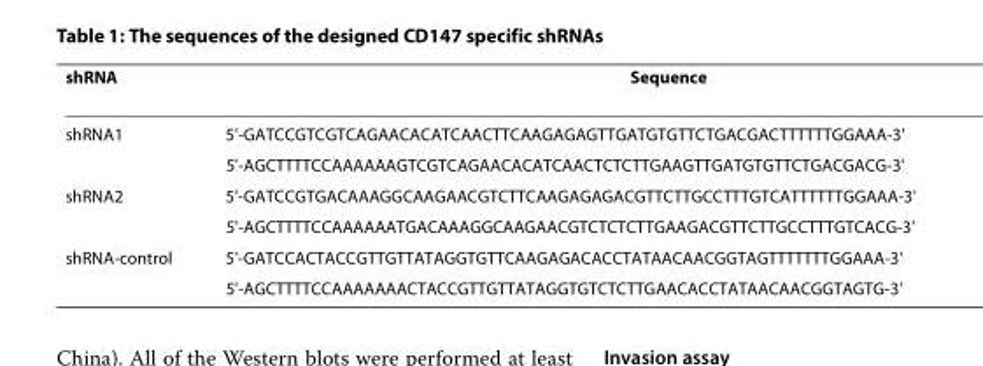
<table><thead><tr><td>shRNA</td><td>Sequence</td></tr></thead><tbody><tr><td rowspan="2">shRNA1</td><td>5&#x27;-GATCCGTCGTCAGAACACATCAACTTCAAGAGAGTTGATGTGTTCTGACGACTTTTTTGGAAA-3&#x27;</td></tr><tr><td>5&#x27;-AGCTTTTCCAAAAAAGTCGTCAGAACACATCAACTCTCTTGAAGTTGATGTGTTCTGACGACG-3&#x27;</td></tr><tr><td rowspan="2">shRNA2</td><td>5&#x27;-GATCCGTGACAAAGGCAAGAACGTCTTCAAGAGAGACGTTCTTGCCTTTGTCATTTTTTGGAAA-3&#x27;</td></tr><tr><td>5&#x27;-AGCTTTTCCAAAAAATGACAAAGGCAAGAACGTCTCTCTTGAAGACGTTCTTGCCTTTGTCACG-3&#x27;</td></tr><tr><td rowspan="2">shRNA-control</td><td>5&#x27;-GATCCACTACCGTTGTTATAGGTGTTCAAGAGACACCTATAACAACGGTAGTTTTTTTGGAAA-3&#x27;</td></tr><tr><td>5&#x27;-AGCTTTTCCAAAAAAACTACCGTTGTTATAGGTGTCTCTTGAACACCTATAACAACGGTAGTG-3&#x27;</td></tr></tbody></table>